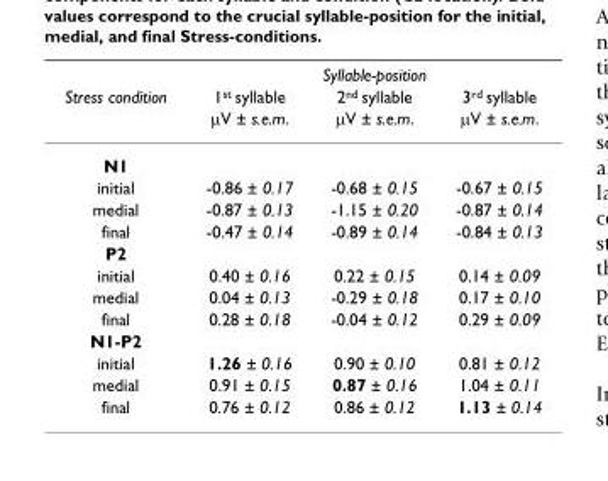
<table><thead><tr><td rowspan="3">Stress condition</td><td colspan="3">Syllable-position</td></tr><tr><td rowspan="2">1<sup>st</sup> syllable μV ± s.e.m.</td><td rowspan="2">2<sup>nd</sup> syllable μV ± s.e.m.</td><td rowspan="2">3<sup>rd</sup> syllable μV ± s.e.m.</td></tr><tr></tr></thead><tbody><tr><td colspan="4">N1</td></tr><tr><td>initial</td><td>-0.86 ± 0.17</td><td>-0.68 ± 0.15</td><td>-0.67 ± 0.15</td></tr><tr><td>medial</td><td>-0.87 ± 0.13</td><td>-1.15 ± 0.20</td><td>-0.87 ± 0.14</td></tr><tr><td>final</td><td>-0.47 ± 0.14</td><td>-0.89 ± 0.14</td><td>-0.84 ± 0.13</td></tr><tr><td colspan="4">P2</td></tr><tr><td>initial</td><td>0.40 ± 0.16</td><td>0.22 ± 0.15</td><td>0.14 ± 0.09</td></tr><tr><td>medial</td><td>0.04 ± 0.13</td><td>-0.29 ± 0.18</td><td>0.17 ± 0.10</td></tr><tr><td>final</td><td>0.28 ± 0.18</td><td>-0.04 ± 0.12</td><td>0.29 ± 0.09</td></tr><tr><td colspan="4">N1-P2</td></tr><tr><td>initial</td><td>1.26 ± 0.16</td><td>0.90 ± 0.10</td><td>0.81 ± 0.12</td></tr><tr><td>medial</td><td>0.91 ± 0.15</td><td>0.87 ± 0.16</td><td>1.04 ± 0.11</td></tr><tr><td>final</td><td>0.76 ± 0.12</td><td>0.86 ± 0.12</td><td>1.13 ± 0.14</td></tr></tbody></table>